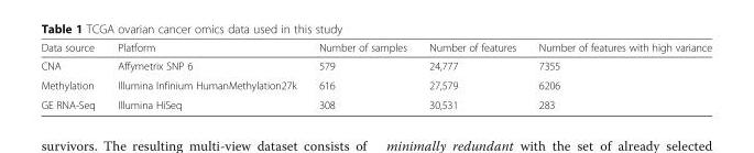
<table><thead><tr><td>Data source</td><td>Platform</td><td>Number of samples</td><td>Number of features</td><td>Number of features with high variance</td></tr></thead><tbody><tr><td>CNA</td><td>Affymetrix SNP 6</td><td>579</td><td>24,777</td><td>7355</td></tr><tr><td>Methylation</td><td>Illumina Infinium HumanMethylation27k</td><td>616</td><td>27,579</td><td>6206</td></tr><tr><td>GE RNA-Seq</td><td>Illumina HiSeq</td><td>308</td><td>30,531</td><td>283</td></tr></tbody></table>